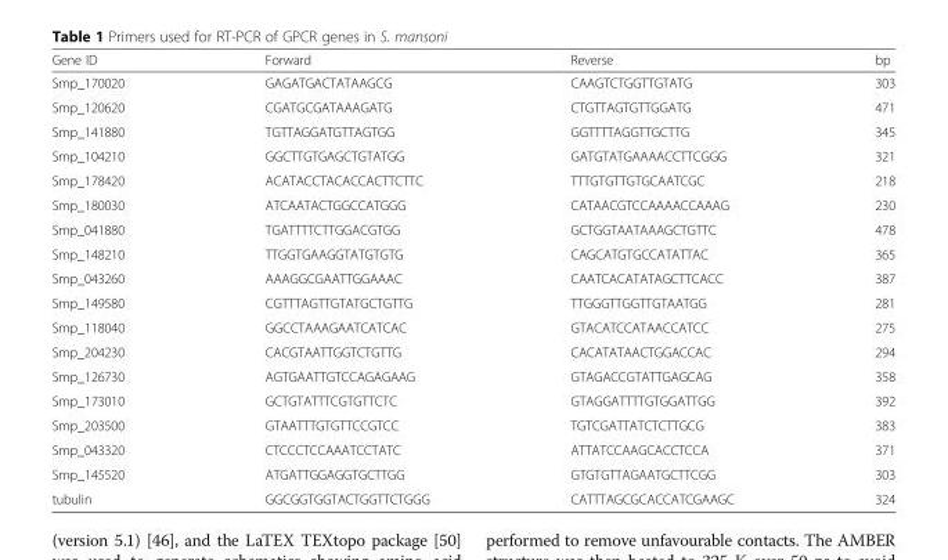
<table><thead><tr><td>Gene ID</td><td>Forward</td><td>Reverse</td><td>bp</td></tr></thead><tbody><tr><td>Smp_170020</td><td>GAGATGACTATAAGCG</td><td>CAAGTCTGGTTGTATG</td><td>303</td></tr><tr><td>Smp_120620</td><td>CGATGCGATAAAGATG</td><td>CTGTTAGTGTTGGATG</td><td>471</td></tr><tr><td>Smp_141880</td><td>TGTTAGGATGTTAGTGG</td><td>GGTTTTAGGTTGCTTG</td><td>345</td></tr><tr><td>Smp_104210</td><td>GGCTTGTGAGCTGTATGG</td><td>GATGTATGAAAACCTTCGGG</td><td>321</td></tr><tr><td>Smp_178420</td><td>ACATACCTACACCACTTCTTC</td><td>TTTGTGTTGTGCAATCGC</td><td>218</td></tr><tr><td>Smp_180030</td><td>ATCAATACTGGCCATGGG</td><td>CATAACGTCCAAAACCAAAG</td><td>230</td></tr><tr><td>Smp_041880</td><td>TGATTTTCTTGGACGTGG</td><td>GCTGGTAATAAAGCTGTTC</td><td>478</td></tr><tr><td>Smp_148210</td><td>TTGGTGAAGGTATGTGTG</td><td>CAGCATGTGCCATATTAC</td><td>365</td></tr><tr><td>Smp_043260</td><td>AAAGGCGAATTGGAAAC</td><td>CAATCACATATAGCTTCACC</td><td>387</td></tr><tr><td>Smp_149580</td><td>CGTTTAGTTGTATGCTGTTG</td><td>TTGGGTTGGTTGTAATGG</td><td>281</td></tr><tr><td>Smp_118040</td><td>GGCCTAAAGAATCATCAC</td><td>GTACATCCATAACCATCC</td><td>275</td></tr><tr><td>Smp_204230</td><td>CACGTAATTGGTCTGTTG</td><td>CACATATAACTGGACCAC</td><td>294</td></tr><tr><td>Smp_126730</td><td>AGTGAATTGTCCAGAGAAG</td><td>GTAGACCGTATTGAGCAG</td><td>358</td></tr><tr><td>Smp_173010</td><td>GCTGTATTTCGTGTTCTC</td><td>GTAGGATTTTGTGGATTGG</td><td>392</td></tr><tr><td>Smp_203500</td><td>GTAATTTGTGTTCCGTCC</td><td>TGTCGATTATCTCTTGCG</td><td>383</td></tr><tr><td>Smp_043320</td><td>CTCCCTCCAAATCCTATC</td><td>ATTATCCAAGCACCTCCA</td><td>371</td></tr><tr><td>Smp_145520</td><td>ATGATTGGAGGTGCTTGG</td><td>GTGTGTTAGAATGCTTCGG</td><td>303</td></tr><tr><td>tubulin</td><td>GGCGGTGGTACTGGTTCTGGG</td><td>CATTTAGCGCACCATCGAAGC</td><td>324</td></tr></tbody></table>